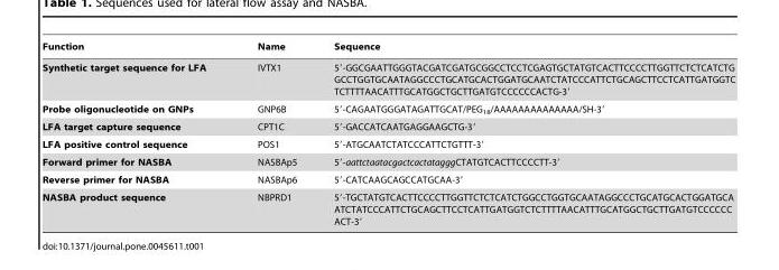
<table><thead><tr><td>Function</td><td>Name</td><td>Sequence</td></tr></thead><tbody><tr><td>Synthetic target sequence for LFA</td><td>IVTX1</td><td>5′-GGCGAATTGGGTACGATCGATGCGGCCTCCTCGAGTGCTATGTCACTTCCCCTTGGTTCTCTCATCTG GCCTGGTGCAATAGGCCCTGCATGCACTGGATGCAATCTATCCCATTCTGCAGCTTCCTCATTGATGGTC TCTTTTAACATTTGCATGGCTGCTTGATGTCCCCCCACTG-3′</td></tr><tr><td>Probe oligonucleotide on GNPs</td><td>GNP6B</td><td>5′-CAGAATGGGATAGATTGCAT/PEG<sub>18</sub>/AAAAAAAAAAAAAA/SH-3′</td></tr><tr><td>LFA target capture sequence</td><td>CPT1C</td><td>5′-GACCATCAATGAGGAAGCTG-3′</td></tr><tr><td>LFA positive control sequence</td><td>POS1</td><td>5′-ATGCAATCTATCCCATTCTGTTT-3′</td></tr><tr><td>Forward primer for NASBA</td><td>NASBAp5</td><td>5′-aattctaatacgactcactatagggCTATGTCACTTCCCCTT-3′</td></tr><tr><td>Reverse primer for NASBA</td><td>NASBAp6</td><td>5′-CATCAAGCAGCCATGCAA-3′</td></tr><tr><td>NASBA product sequence</td><td>NBPRD1</td><td>5′-TGCTATGTCACTTCCCCTTGGTTCTCTCATCTGGCCTGGTGCAATAGGCCCTGCATGCACTGGATGCA ATCTATCCCATTCTGCAGCTTCCTCATTGATGGTCTCTTTTAACATTTGCATGGCTGCTTGATGTCCCCCC ACT-3′</td></tr></tbody></table>